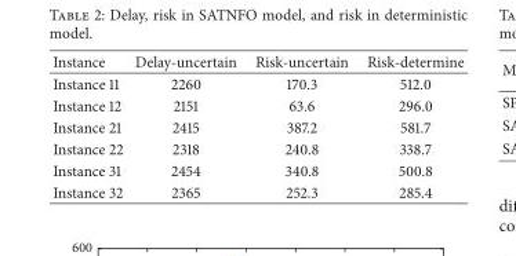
<table><thead><tr><td>Instance</td><td>Delay-uncertain</td><td>Risk-uncertain</td><td>Risk-determine</td></tr></thead><tbody><tr><td>Instance 11</td><td>2260</td><td>170.3</td><td>512.0</td></tr><tr><td>Instance 12</td><td>2151</td><td>63.6</td><td>296.0</td></tr><tr><td>Instance 21</td><td>2415</td><td>387.2</td><td>581.7</td></tr><tr><td>Instance 22</td><td>2318</td><td>240.8</td><td>338.7</td></tr><tr><td>Instance 31</td><td>2454</td><td>340.8</td><td>500.8</td></tr><tr><td>Instance 32</td><td>2365</td><td>252.3</td><td>285.4</td></tr></tbody></table>